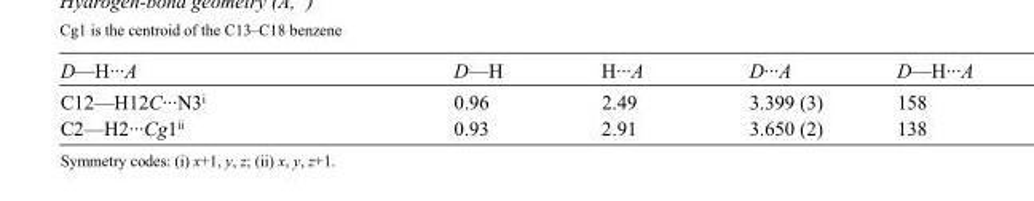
<table><tbody><tr><td>D—H···A</td><td>D—H</td><td>H···A</td><td>D···A</td><td>D—H···A</td></tr><tr><td>C12—H12C···N3<sup>i</sup></td><td>0.96</td><td>2.49</td><td>3.399 (3)</td><td>158</td></tr><tr><td>C2—H2···Cg1<sup>ii</sup></td><td>0.93</td><td>2.91</td><td>3.650 (2)</td><td>138</td></tr></tbody></table>